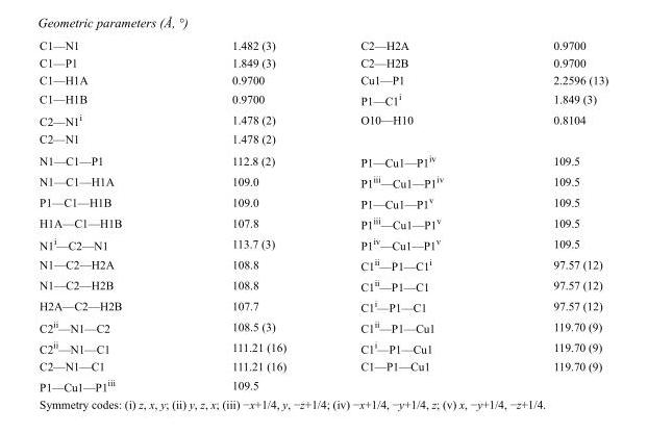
<table><tbody><tr><td>C1—N1</td><td>1.482 (3)</td><td>C2—H2A</td><td>0.9700</td></tr><tr><td>C1—P1</td><td>1.849 (3)</td><td>C2—H2B</td><td>0.9700</td></tr><tr><td>C1—H1A</td><td>0.9700</td><td>Cu1—P1</td><td>2.2596 (13)</td></tr><tr><td>C1—H1B</td><td>0.9700</td><td>P1—C1<sup>i</sup></td><td>1.849 (3)</td></tr><tr><td>C2—N1<sup>i</sup></td><td>1.478 (2)</td><td>O10—H10</td><td>0.8104</td></tr><tr><td>C2—N1</td><td>1.478 (2)</td><td></td><td></td></tr><tr><td>N1—C1—P1</td><td>112.8 (2)</td><td>P1—Cu1—P1<sup>iv</sup></td><td>109.5</td></tr><tr><td>N1—C1—H1A</td><td>109.0</td><td>P1<sup>iii</sup>—Cu1—P1<sup>iv</sup></td><td>109.5</td></tr><tr><td>P1—C1—H1B</td><td>109.0</td><td>P1—Cu1—P1<sup>v</sup></td><td>109.5</td></tr><tr><td>H1A—C1—H1B</td><td>107.8</td><td>P1<sup>iii</sup>—Cu1—P1<sup>v</sup></td><td>109.5</td></tr><tr><td>N1<sup>i</sup>—C2—N1</td><td>113.7 (3)</td><td>P1<sup>iv</sup>—Cu1—P1<sup>v</sup></td><td>109.5</td></tr><tr><td>N1—C2—H2A</td><td>108.8</td><td>C1<sup>ii</sup>—P1—C1<sup>i</sup></td><td>97.57 (12)</td></tr><tr><td>N1—C2—H2B</td><td>108.8</td><td>C1<sup>ii</sup>—P1—C1</td><td>97.57 (12)</td></tr><tr><td>H2A—C2—H2B</td><td>107.7</td><td>C1<sup>i</sup>—P1—C1</td><td>97.57 (12)</td></tr><tr><td>C2<sup>ii</sup>—N1—C2</td><td>108.5 (3)</td><td>C1<sup>ii</sup>—P1—Cu1</td><td>119.70 (9)</td></tr><tr><td>C2<sup>ii</sup>—N1—C1</td><td>111.21 (16)</td><td>C1<sup>i</sup>—P1—Cu1</td><td>119.70 (9)</td></tr><tr><td>C2—N1—C1</td><td>111.21 (16)</td><td>C1—P1—Cu1</td><td>119.70 (9)</td></tr><tr><td>P1—Cu1—P1<sup>iii</sup></td><td>109.5</td><td></td><td></td></tr></tbody></table>